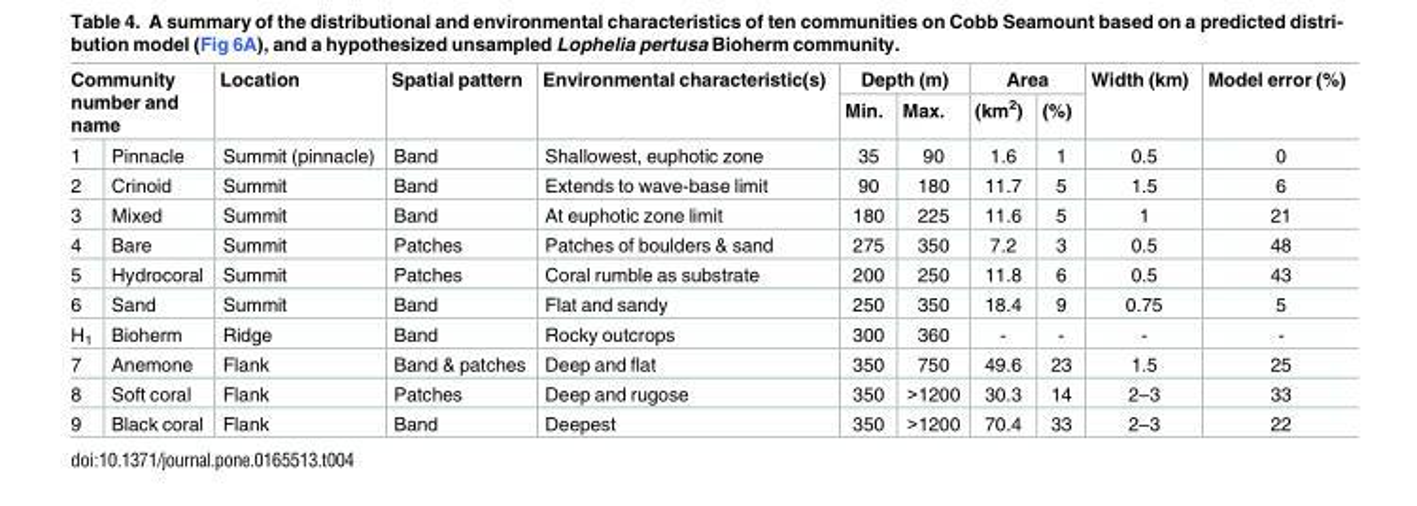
<table><thead><tr><td rowspan="2" colspan="2">Community number and name</td><td rowspan="3">Location Summit (pinnacle)</td><td rowspan="3">Spatial pattern Band</td><td rowspan="3">Environmental characteristic(s) Shallowest, euphotic zone</td><td colspan="2">Depth (m)</td><td colspan="2">Area</td><td rowspan="3">Width (km) 0.5</td><td rowspan="3">Model error (%) 0</td></tr><tr><td rowspan="2">Min. 35</td><td rowspan="2">Max. 90</td><td rowspan="2">(km<sup>2</sup>) 1.6</td><td rowspan="2">(%) 1</td></tr><tr><td>1</td><td>Pinnacle</td></tr></thead><tbody><tr><td>2</td><td>Crinoid</td><td>Summit</td><td>Band</td><td>Extends to wave-base limit</td><td>90</td><td>180</td><td>11.7</td><td>5</td><td>1.5</td><td>6</td></tr><tr><td>3</td><td>Mixed</td><td>Summit</td><td>Band</td><td>At euphotic zone limit</td><td>180</td><td>225</td><td>11.6</td><td>5</td><td>1</td><td>21</td></tr><tr><td>4</td><td>Bare</td><td>Summit</td><td>Patches</td><td>Patches of boulders &amp; sand</td><td>275</td><td>350</td><td>7.2</td><td>3</td><td>0.5</td><td>48</td></tr><tr><td>5</td><td>Hydrocoral</td><td>Summit</td><td>Patches</td><td>Coral rumble as substrate</td><td>200</td><td>250</td><td>11.8</td><td>6</td><td>0.5</td><td>43</td></tr><tr><td>6</td><td>Sand</td><td>Summit</td><td>Band</td><td>Flat and sandy</td><td>250</td><td>350</td><td>18.4</td><td>9</td><td>0.75</td><td>5</td></tr><tr><td>H<sub>1</sub></td><td>Bioherm</td><td>Ridge</td><td>Band</td><td>Rocky outcrops</td><td>300</td><td>360</td><td>-</td><td>-</td><td>-</td><td>-</td></tr><tr><td>7</td><td>Anemone</td><td>Flank</td><td>Band &amp; patches</td><td>Deep and flat</td><td>350</td><td>750</td><td>49.6</td><td>23</td><td>1.5</td><td>25</td></tr><tr><td>8</td><td>Soft coral</td><td>Flank</td><td>Patches</td><td>Deep and rugose</td><td>350</td><td>&gt;1200</td><td>30.3</td><td>14</td><td>2–3</td><td>33</td></tr><tr><td>9</td><td>Black coral</td><td>Flank</td><td>Band</td><td>Deepest</td><td>350</td><td>&gt;1200</td><td>70.4</td><td>33</td><td>2–3</td><td>22</td></tr></tbody></table>